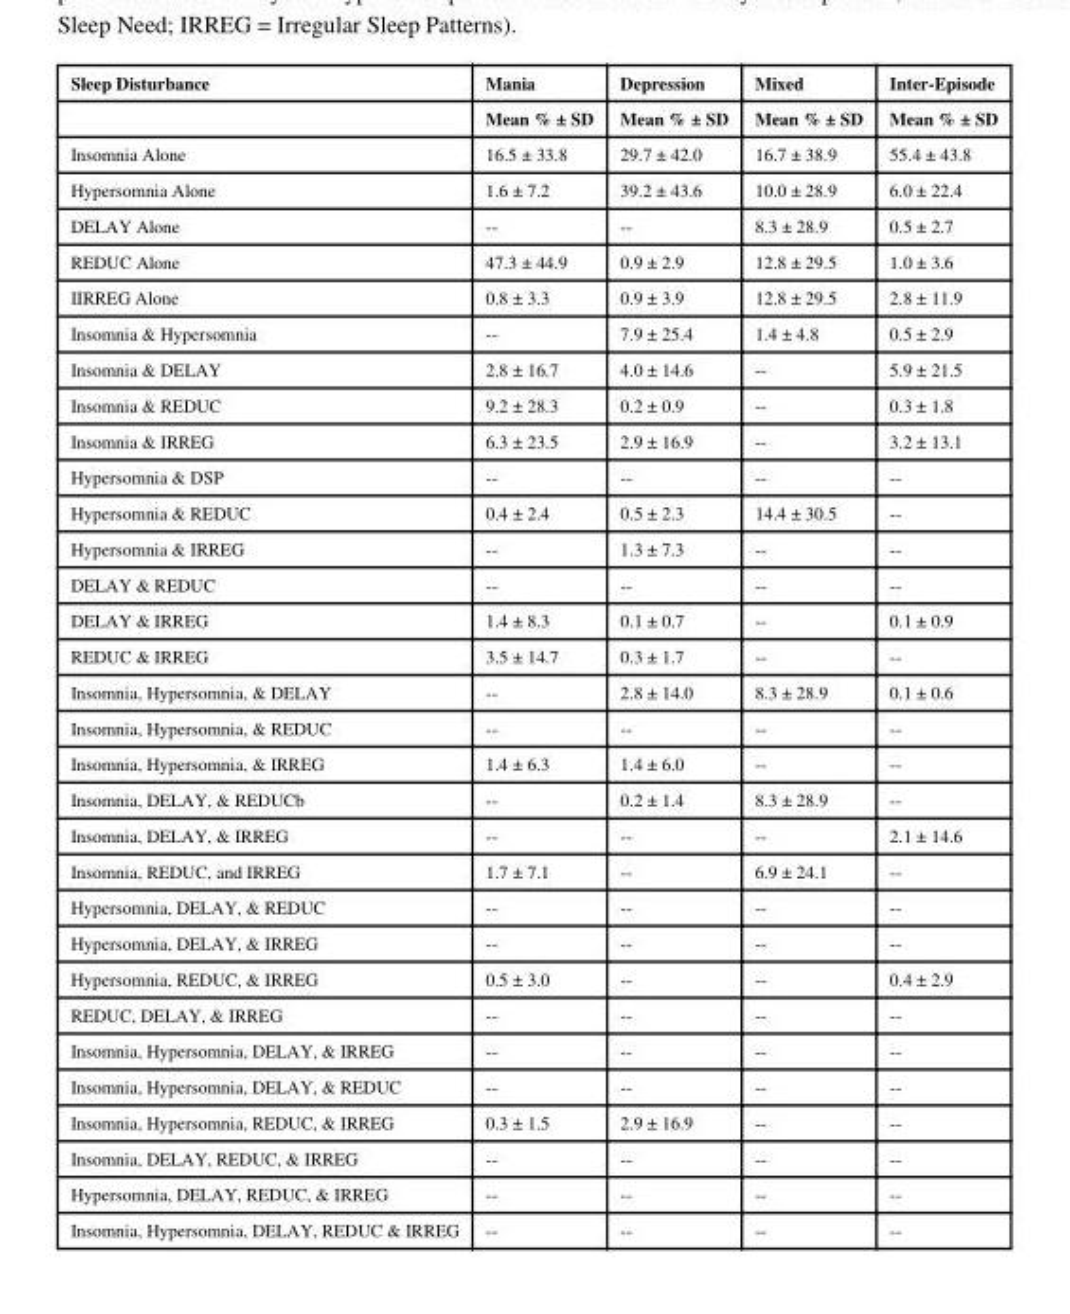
<table><thead><tr><td rowspan="2">Sleep Disturbance</td><td rowspan="2">Mania Mean % ± SD</td><td rowspan="2">Depression Mean % ± SD</td><td rowspan="2">Mixed Mean % ± SD</td><td rowspan="2">Inter-Episode Mean % ± SD</td></tr><tr></tr></thead><tbody><tr><td>Insomnia Alone</td><td>16.5 ± 33.8</td><td>29.7 ± 42.0</td><td>16.7 ± 38.9</td><td>55.4 ± 43.8</td></tr><tr><td>Hypersomnia Alone</td><td>1.6 ± 7.2</td><td>39.2 ± 43.6</td><td>10.0 ± 28.9</td><td>6.0 ± 22.4</td></tr><tr><td>DELAY Alone</td><td>--</td><td>--</td><td>8.3 ± 28.9</td><td>0.5 ± 2.7</td></tr><tr><td>REDUC Alone</td><td>47.3 ± 44.9</td><td>0.9 ± 2.9</td><td>12.8 ± 29.5</td><td>1.0 ± 3.6</td></tr><tr><td>IIRREG Alone</td><td>0.8 ± 3.3</td><td>0.9 ± 3.9</td><td>12.8 ± 29.5</td><td>2.8 ± 11.9</td></tr><tr><td>Insomnia &amp; Hypersomnia</td><td>--</td><td>7.9 ± 25.4</td><td>1.4 ± 4.8</td><td>0.5 ± 2.9</td></tr><tr><td>Insomnia &amp; DELAY</td><td>2.8 ± 16.7</td><td>4.0 ± 14.6</td><td>--</td><td>5.9 ± 21.5</td></tr><tr><td>Insomnia &amp; REDUC</td><td>9.2 ± 28.3</td><td>0.2 ± 0.9</td><td>--</td><td>0.3 ± 1.8</td></tr><tr><td>Insomnia &amp; IRREG</td><td>6.3 ± 23.5</td><td>2.9 ± 16.9</td><td>--</td><td>3.2 ± 13.1</td></tr><tr><td>Hypersomnia &amp; DSP</td><td>--</td><td>--</td><td>--</td><td>--</td></tr><tr><td>Hypersomnia &amp; REDUC</td><td>0.4 ± 2.4</td><td>0.5 ± 2.3</td><td>14.4 ± 30.5</td><td>--</td></tr><tr><td>Hypersomnia &amp; IRREG</td><td>--</td><td>1.3 ± 7.3</td><td>--</td><td>--</td></tr><tr><td>DELAY &amp; REDUC</td><td>--</td><td>--</td><td>--</td><td>--</td></tr><tr><td>DELAY &amp; IRREG</td><td>1.4 ± 8.3</td><td>0.1 ± 0.7</td><td>--</td><td>0.1 ± 0.9</td></tr><tr><td>REDUC &amp; IRREG</td><td>3.5 ± 14.7</td><td>0.3 ± 1.7</td><td>--</td><td>--</td></tr><tr><td>Insomnia, Hypersomnia, &amp; DELAY</td><td>--</td><td>2.8 ± 14.0</td><td>8.3 ± 28.9</td><td>0.1 ± 0.6</td></tr><tr><td>Insomnia, Hypersomnia, &amp; REDUC</td><td>--</td><td>--</td><td>--</td><td>--</td></tr><tr><td>Insomnia, Hypersomnia, &amp; IRREG</td><td>1.4 ± 6.3</td><td>1.4 ± 6.0</td><td>--</td><td>--</td></tr><tr><td>Insomnia, DELAY, &amp; REDUCb</td><td>--</td><td>0.2 ± 1.4</td><td>8.3 ± 28.9</td><td>--</td></tr><tr><td>Insomnia, DELAY, &amp; IRREG</td><td>--</td><td>--</td><td>--</td><td>2.1 ± 14.6</td></tr><tr><td>Insomnia, REDUC, and IRREG</td><td>1.7 ± 7.1</td><td>--</td><td>6.9 ± 24.1</td><td>--</td></tr><tr><td>Hypersomnia, DELAY, &amp; REDUC</td><td>--</td><td>--</td><td>--</td><td>--</td></tr><tr><td>Hypersomnia, DELAY, &amp; IRREG</td><td>--</td><td>--</td><td>--</td><td>--</td></tr><tr><td>Hypersomnia, REDUC, &amp; IRREG</td><td>0.5 ± 3.0</td><td>--</td><td>--</td><td>0.4 ± 2.9</td></tr><tr><td>REDUC, DELAY, &amp; IRREG</td><td>--</td><td>--</td><td>--</td><td>--</td></tr><tr><td>Insomnia, Hypersomnia, DELAY, &amp; IRREG</td><td>--</td><td>--</td><td>--</td><td>--</td></tr><tr><td>Insomnia, Hypersomnia, DELAY, &amp; REDUC</td><td>--</td><td>--</td><td>--</td><td>--</td></tr><tr><td>Insomnia, Hypersomnia, REDUC, &amp; IRREG</td><td>0.3 ± 1.5</td><td>2.9 ± 16.9</td><td>--</td><td>--</td></tr><tr><td>Insomnia, DELAY, REDUC, &amp; IRREG</td><td>--</td><td>--</td><td>--</td><td>--</td></tr><tr><td>Hypersomnia, DELAY, REDUC, &amp; IRREG</td><td>--</td><td>--</td><td>--</td><td>--</td></tr><tr><td>Insomnia, Hypersomnia, DELAY, REDUC &amp; IRREG</td><td>--</td><td>--</td><td>--</td><td>--</td></tr></tbody></table>